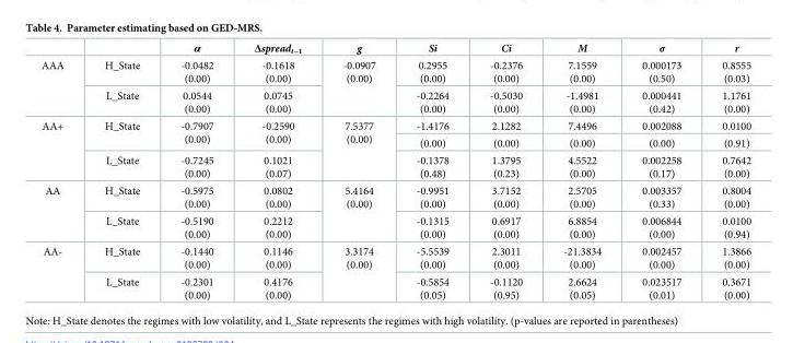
<table><thead><tr><td></td><td></td><td>α</td><td>Δspread<sub>t−1</sub></td><td>g</td><td>Si</td><td>Ci</td><td>M</td><td>σ</td><td>r</td></tr></thead><tbody><tr><td rowspan="2">AAA</td><td>H_State</td><td>-0.0482 (0.00)</td><td>-0.1618 (0.00)</td><td rowspan="2">-0.0907 (0.00)</td><td>0.2955 (0.00)</td><td>-0.2376 (0.00)</td><td>7.1559 (0.00)</td><td>0.000173 (0.50)</td><td>0.8555 (0.03)</td></tr><tr><td>L_State</td><td>0.0544 (0.00)</td><td>0.0745 (0.00)</td><td>-0.2264 (0.00)</td><td>-0.5030 (0.00)</td><td>-1.4981 (0.00)</td><td>0.000441 (0.42)</td><td>1.1761 (0.00)</td></tr><tr><td rowspan="3">AA+</td><td rowspan="2">H_State</td><td rowspan="2">-0.7907 (0.00)</td><td rowspan="2">-0.2590 (0.00)</td><td rowspan="3">7.5377 (0.00)</td><td>-1.4176</td><td>2.1282</td><td>7.4496</td><td>0.002088</td><td>0.0100</td></tr><tr><td>(0.00)</td><td>(0.00)</td><td>(0.00)</td><td>(0.00)</td><td>(0.91)</td></tr><tr><td>L_State</td><td>-0.7245 (0.00)</td><td>0.1021 (0.07)</td><td>-0.1378 (0.48)</td><td>1.3795 (0.23)</td><td>4.5522 (0.00)</td><td>0.002258 (0.17)</td><td>0.7642 (0.00)</td></tr><tr><td rowspan="2">AA</td><td>H_State</td><td>-0.5975 (0.00)</td><td>0.0802 (0.00)</td><td rowspan="2">5.4164 (0.00)</td><td>-0.9951 (0.00)</td><td>3.7152 (0.00)</td><td>2.5705 (0.00)</td><td>0.003357 (0.33)</td><td>0.8004 (0.00)</td></tr><tr><td>L_State</td><td>-0.5190 (0.00)</td><td>0.2212 (0.00)</td><td>-0.1315 (0.00)</td><td>0.6917 (0.00)</td><td>6.8854 (0.00)</td><td>0.006844 (0.00)</td><td>0.0100 (0.94)</td></tr><tr><td rowspan="2">AA-</td><td>H_State</td><td>-0.1440 (0.00)</td><td>0.1146 (0.00)</td><td rowspan="2">3.3174 (0.00)</td><td>-5.5539 (0.00)</td><td>2.3011 (0.00)</td><td>-21.3834 (0.00)</td><td>0.002457 (0.00)</td><td>1.3866 (0.00)</td></tr><tr><td>L_State</td><td>-0.2301 (0.00)</td><td>0.4176 (0.00)</td><td>-0.5854 (0.05)</td><td>-0.1120 (0.95)</td><td>2.6624 (0.05)</td><td>0.023517 (0.01)</td><td>0.3671 (0.00)</td></tr></tbody></table>